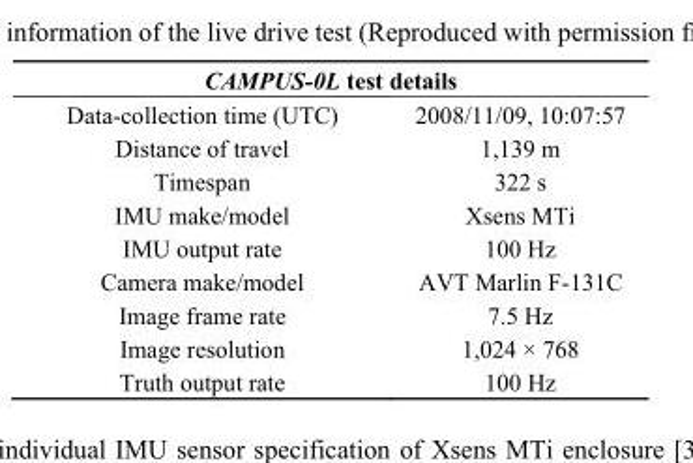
<table><thead><tr><td colspan="2">CAMPUS-0L test details</td></tr><tr><td>Data-collection time (UTC)</td><td>2008/11/09, 10:07:57</td></tr></thead><tbody><tr><td>Distance of travel</td><td>1,139 m</td></tr><tr><td>Timespan</td><td>322 s</td></tr><tr><td>IMU make/model</td><td>Xsens MTi</td></tr><tr><td>IMU output rate</td><td>100 Hz</td></tr><tr><td>Camera make/model</td><td>AVT Marlin F-131C</td></tr><tr><td>Image frame rate</td><td>7.5 Hz</td></tr><tr><td>Image resolution</td><td>1,024 × 768</td></tr><tr><td>Truth output rate</td><td>100 Hz</td></tr></tbody></table>